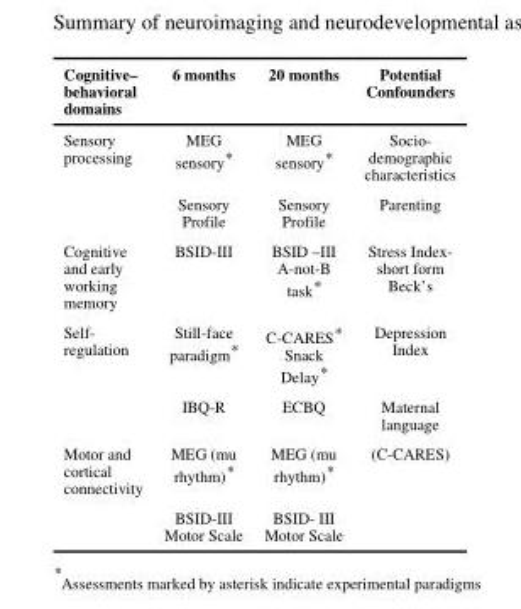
<table><thead><tr><td>Cognitive– behavioral domains</td><td>6 months</td><td>20 months</td><td>Potential Confounders</td></tr></thead><tbody><tr><td rowspan="2">Sensory processing</td><td>MEG sensory*</td><td>MEG sensory*</td><td>Socio- demographic characteristics</td></tr><tr><td>Sensory Profile</td><td>Sensory Profile</td><td>Parenting</td></tr><tr><td>Cognitive and early working memory</td><td>BSID-III</td><td>BSID –III A-not-B task*</td><td>Stress Index- short form Beck’s</td></tr><tr><td rowspan="2">Self- regulation</td><td>Still-face paradigm*</td><td>C-CARES* Snack Delay*</td><td>Depression Index</td></tr><tr><td>IBQ-R</td><td>ECBQ</td><td>Maternal language</td></tr><tr><td rowspan="2">Motor and cortical connectivity</td><td>MEG (mu rhythm)*</td><td>MEG (mu rhythm)*</td><td>(C-CARES)</td></tr><tr><td>BSID-III Motor Scale</td><td>BSID- III Motor Scale</td><td></td></tr></tbody></table>